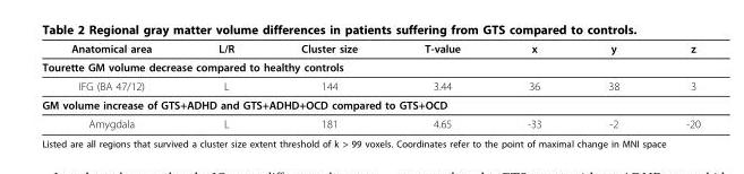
<table><thead><tr><td>Anatomical area</td><td>L/R</td><td>Cluster size</td><td>T-value</td><td>x</td><td>y</td><td>z</td></tr></thead><tbody><tr><td colspan="7">Tourette GM volume decrease compared to healthy controls</td></tr><tr><td>IFG (BA 47/12)</td><td>L</td><td>144</td><td>3.44</td><td>36</td><td>38</td><td>3</td></tr><tr><td colspan="7">GM volume increase of GTS+ADHD and GTS+ADHD+OCD compared to GTS+OCD</td></tr><tr><td>Amygdala</td><td>L</td><td>181</td><td>4.65</td><td>-33</td><td>-2</td><td>-20</td></tr></tbody></table>